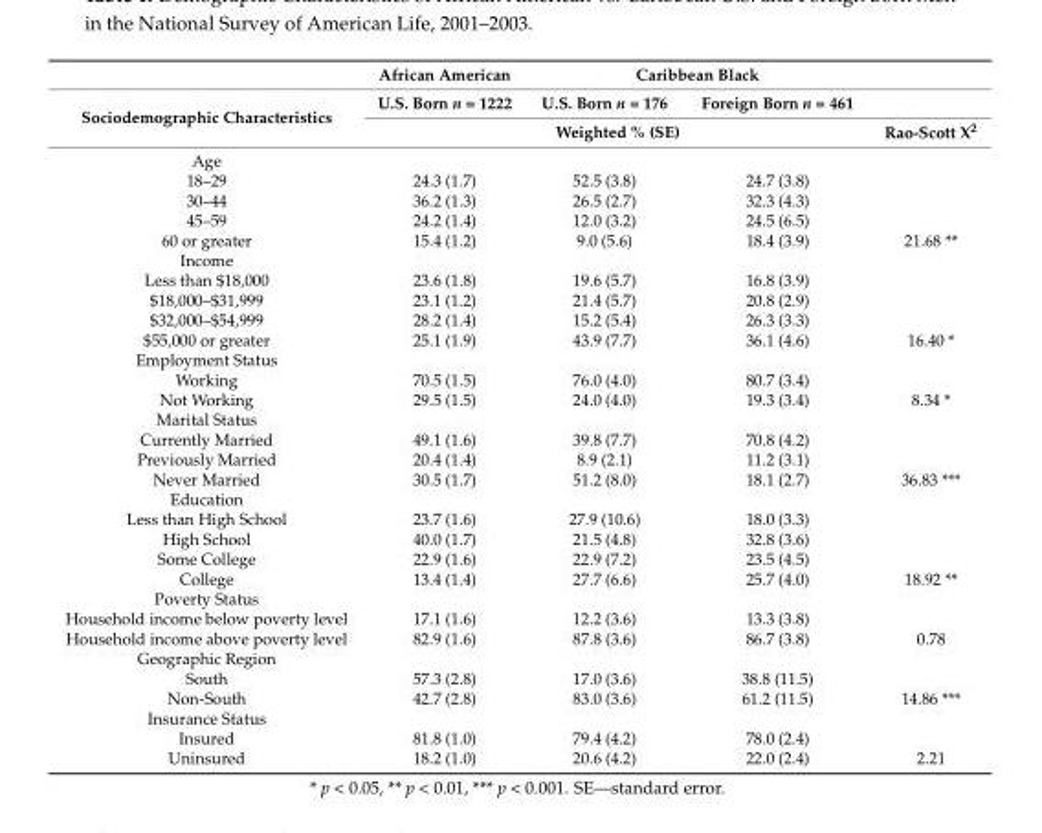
<table><thead><tr><td rowspan="3">Sociodemographic Characteristics</td><td rowspan="2">African American U.S. Born n = 1222</td><td colspan="2">Caribbean Black</td><td rowspan="3">Rao-Scott X<sup>2</sup></td></tr><tr><td>U.S. Born n = 176</td><td>Foreign Born n = 461</td></tr><tr><td colspan="3">Weighted % (SE)</td></tr></thead><tbody><tr><td colspan="5">Age</td></tr><tr><td>18–29</td><td>24.3 (1.7)</td><td>52.5 (3.8)</td><td>24.7 (3.8)</td><td></td></tr><tr><td>30–44</td><td>36.2 (1.3)</td><td>26.5 (2.7)</td><td>32.3 (4.3)</td><td></td></tr><tr><td>45–59</td><td>24.2 (1.4)</td><td>12.0 (3.2)</td><td>24.5 (6.5)</td><td></td></tr><tr><td>60 or greater</td><td>15.4 (1.2)</td><td>9.0 (5.6)</td><td>18.4 (3.9)</td><td>21.68 **</td></tr><tr><td colspan="5">Income</td></tr><tr><td>Less than $18,000</td><td>23.6 (1.8)</td><td>19.6 (5.7)</td><td>16.8 (3.9)</td><td></td></tr><tr><td>$18,000–$31,999</td><td>23.1 (1.2)</td><td>21.4 (5.7)</td><td>20.8 (2.9)</td><td></td></tr><tr><td>$32,000–$54,999</td><td>28.2 (1.4)</td><td>15.2 (5.4)</td><td>26.3 (3.3)</td><td></td></tr><tr><td>$55,000 or greater</td><td>25.1 (1.9)</td><td>43.9 (7.7)</td><td>36.1 (4.6)</td><td>16.40 *</td></tr><tr><td colspan="5">Employment Status</td></tr><tr><td>Working</td><td>70.5 (1.5)</td><td>76.0 (4.0)</td><td>80.7 (3.4)</td><td></td></tr><tr><td>Not Working</td><td>29.5 (1.5)</td><td>24.0 (4.0)</td><td>19.3 (3.4)</td><td>8.34 *</td></tr><tr><td colspan="5">Marital Status</td></tr><tr><td>Currently Married</td><td>49.1 (1.6)</td><td>39.8 (7.7)</td><td>70.8 (4.2)</td><td></td></tr><tr><td>Previously Married</td><td>20.4 (1.4)</td><td>8.9 (2.1)</td><td>11.2 (3.1)</td><td></td></tr><tr><td>Never Married</td><td>30.5 (1.7)</td><td>51.2 (8.0)</td><td>18.1 (2.7)</td><td>36.83 ***</td></tr><tr><td colspan="5">Education</td></tr><tr><td>Less than High School</td><td>23.7 (1.6)</td><td>27.9 (10.6)</td><td>18.0 (3.3)</td><td></td></tr><tr><td>High School</td><td>40.0 (1.7)</td><td>21.5 (4.8)</td><td>32.8 (3.6)</td><td></td></tr><tr><td>Some College</td><td>22.9 (1.6)</td><td>22.9 (7.2)</td><td>23.5 (4.5)</td><td></td></tr><tr><td>College</td><td>13.4 (1.4)</td><td>27.7 (6.6)</td><td>25.7 (4.0)</td><td>18.92 **</td></tr><tr><td colspan="5">Poverty Status</td></tr><tr><td>Household income below poverty level</td><td>17.1 (1.6)</td><td>12.2 (3.6)</td><td>13.3 (3.8)</td><td></td></tr><tr><td>Household income above poverty level</td><td>82.9 (1.6)</td><td>87.8 (3.6)</td><td>86.7 (3.8)</td><td>0.78</td></tr><tr><td colspan="5">Geographic Region</td></tr><tr><td>South</td><td>57.3 (2.8)</td><td>17.0 (3.6)</td><td>38.8 (11.5)</td><td></td></tr><tr><td>Non-South</td><td>42.7 (2.8)</td><td>83.0 (3.6)</td><td>61.2 (11.5)</td><td>14.86 ***</td></tr><tr><td colspan="5">Insurance Status</td></tr><tr><td>Insured</td><td>81.8 (1.0)</td><td>79.4 (4.2)</td><td>78.0 (2.4)</td><td></td></tr><tr><td>Uninsured</td><td>18.2 (1.0)</td><td>20.6 (4.2)</td><td>22.0 (2.4)</td><td>2.21</td></tr></tbody></table>